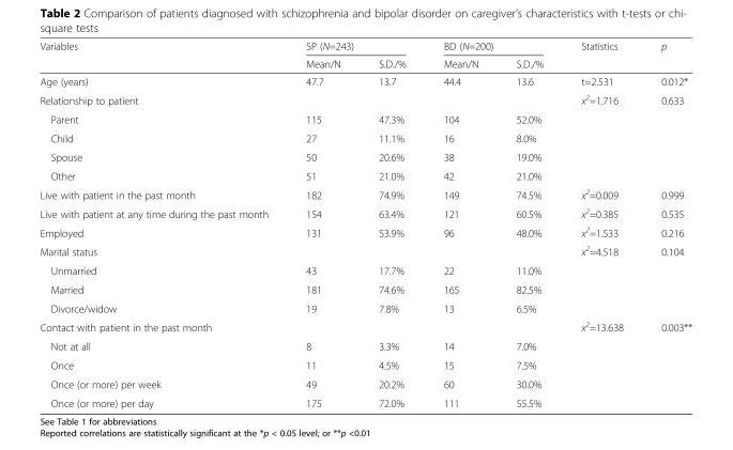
<table><thead><tr><td rowspan="2">Variables</td><td colspan="2">SP (N=243)</td><td colspan="2">BD (N=200)</td><td rowspan="2">Statistics</td><td rowspan="2">p</td></tr><tr><td>Mean/N</td><td>S.D./%</td><td>Mean/N</td><td>S.D./%</td></tr></thead><tbody><tr><td>Age (years)</td><td>47.7</td><td>13.7</td><td>44.4</td><td>13.6</td><td>t=2.531</td><td>0.012*</td></tr><tr><td colspan="3">Relationship to patient</td><td></td><td></td><td>x<sup>2</sup>=1.716</td><td>0.633</td></tr><tr><td>Parent</td><td>115</td><td>47.3%</td><td>104</td><td>52.0%</td><td></td><td></td></tr><tr><td>Child</td><td>27</td><td>11.1%</td><td>16</td><td>8.0%</td><td></td><td></td></tr><tr><td>Spouse</td><td>50</td><td>20.6%</td><td>38</td><td>19.0%</td><td></td><td></td></tr><tr><td>Other</td><td>51</td><td>21.0%</td><td>42</td><td>21.0%</td><td></td><td></td></tr><tr><td>Live with patient in the past month</td><td>182</td><td>74.9%</td><td>149</td><td>74.5%</td><td>x<sup>2</sup>=0.009</td><td>0.999</td></tr><tr><td>Live with patient at any time during the past month</td><td>154</td><td>63.4%</td><td>121</td><td>60.5%</td><td>x<sup>2</sup>=0.385</td><td>0.535</td></tr><tr><td>Employed</td><td>131</td><td>53.9%</td><td>96</td><td>48.0%</td><td>x<sup>2</sup>=1.533</td><td>0.216</td></tr><tr><td colspan="2">Marital status</td><td></td><td></td><td></td><td>x<sup>2</sup>=4.518</td><td>0.104</td></tr><tr><td>Unmarried</td><td>43</td><td>17.7%</td><td>22</td><td>11.0%</td><td></td><td></td></tr><tr><td>Married</td><td>181</td><td>74.6%</td><td>165</td><td>82.5%</td><td></td><td></td></tr><tr><td>Divorce/widow</td><td>19</td><td>7.8%</td><td>13</td><td>6.5%</td><td></td><td></td></tr><tr><td colspan="2">Contact with patient in the past month</td><td></td><td></td><td></td><td>x<sup>2</sup>=13.638</td><td>0.003**</td></tr><tr><td>Not at all</td><td>8</td><td>3.3%</td><td>14</td><td>7.0%</td><td></td><td></td></tr><tr><td>Once</td><td>11</td><td>4.5%</td><td>15</td><td>7.5%</td><td></td><td></td></tr><tr><td>Once (or more) per week</td><td>49</td><td>20.2%</td><td>60</td><td>30.0%</td><td></td><td></td></tr><tr><td>Once (or more) per day</td><td>175</td><td>72.0%</td><td>111</td><td>55.5%</td><td></td><td></td></tr></tbody></table>